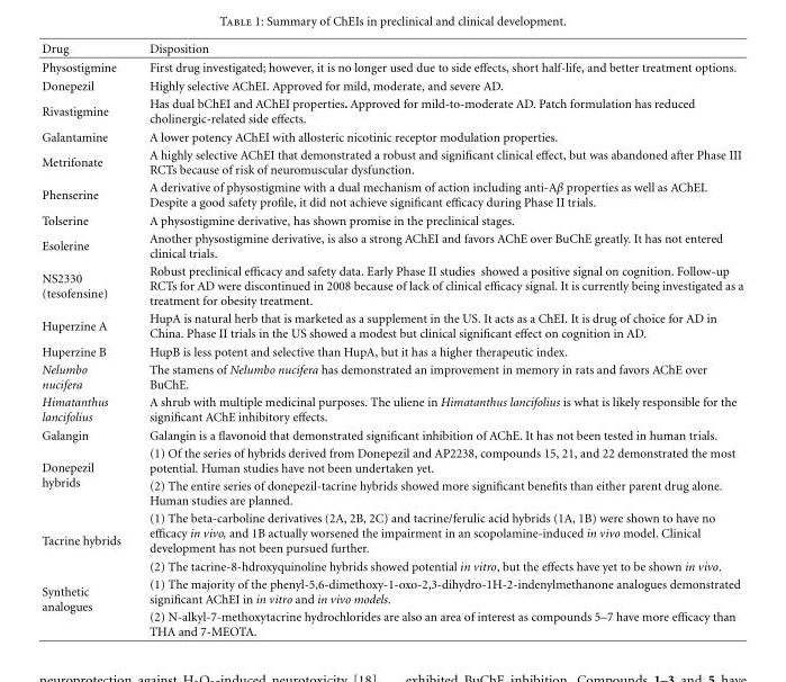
<table><thead><tr><td>Drug</td><td>Disposition</td></tr></thead><tbody><tr><td>Physostigmine</td><td>First drug investigated; however, it is no longer used due to side effects, short half-life, and better treatment options.</td></tr><tr><td>Donepezil</td><td>Highly selective AChEI. Approved for mild, moderate, and severe AD.</td></tr><tr><td>Rivastigmine</td><td>Has dual bChEI and AChEI properties. Approved for mild-to-moderate AD. Patch formulation has reduced cholinergic-related side effects.</td></tr><tr><td>Galantamine</td><td>A lower potency AChEI with allosteric nicotinic receptor modulation properties.</td></tr><tr><td>Metrifonate</td><td>A highly selective AChEI that demonstrated a robust and significant clinical effect, but was abandoned after Phase III RCTs because of risk of neuromuscular dysfunction.</td></tr><tr><td>Phenserine</td><td>A derivative of physostigmine with a dual mechanism of action including anti-Aβ properties as well as AChEI. Despite a good safety profile, it did not achieve significant efficacy during Phase II trials.</td></tr><tr><td>Tolserine</td><td>A physostigmine derivative, has shown promise in the preclinical stages.</td></tr><tr><td>Esolerine</td><td>Another physostigmine derivative, is also a strong AChEI and favors AChE over BuChE greatly. It has not entered clinical trials.</td></tr><tr><td>NS2330 (tesofensine)</td><td>Robust preclinical efficacy and safety data. Early Phase II studies showed a positive signal on cognition. Follow-up RCTs for AD were discontinued in 2008 because of lack of clinical efficacy signal. It is currently being investigated as a treatment for obesity treatment.</td></tr><tr><td>Huperzine A</td><td>HupA is natural herb that is marketed as a supplement in the US. It acts as a ChEI. It is drug of choice for AD in China. Phase II trials in the US showed a modest but clinical significant effect on cognition in AD.</td></tr><tr><td>Huperzine B</td><td>HupB is less potent and selective than HupA, but it has a higher therapeutic index.</td></tr><tr><td>Nelumbo nucifera</td><td>The stamens of Nelumbo nucifera has demonstrated an improvement in memory in rats and favors AChE over BuChE.</td></tr><tr><td>Himatanthus lancifolius</td><td>A shrub with multiple medicinal purposes. The uliene in Himatanthus lancifolius is what is likely responsible for the significant AChE inhibitory effects.</td></tr><tr><td>Galangin</td><td>Galangin is a flavonoid that demonstrated significant inhibition of AChE. It has not been tested in human trials.</td></tr><tr><td rowspan="2">Donepezil hybrids</td><td>(1) Of the series of hybrids derived from Donepezil and AP2238, compounds 15, 21, and 22 demonstrated the most potential. Human studies have not been undertaken yet.</td></tr><tr><td>(2) The entire series of donepezil-tacrine hybrids showed more significant benefits than either parent drug alone. Human studies are planned.</td></tr><tr><td rowspan="2">Tacrine hybrids</td><td>(1) The beta-carboline derivatives (2A, 2B, 2C) and tacrine/ferulic acid hybrids (1A, 1B) were shown to have no efficacy in vivo, and 1B actually worsened the impairment in an scopolamine-induced in vivo model. Clinical development has not been pursued further.</td></tr><tr><td>(2) The tacrine-8-hdroxyquinoline hybrids showed potential in vitro, but the effects have yet to be shown in vivo.</td></tr><tr><td rowspan="2">Synthetic analogues</td><td>(1) The majority of the phenyl-5,6-dimethoxy-1-oxo-2,3-dihydro-1H-2-indenylmethanone analogues demonstrated significant AChEI in in vitro and in vivo models.</td></tr><tr><td>(2) N-alkyl-7-methoxytacrine hydrochlorides are also an area of interest as compounds 5–7 have more efficacy than THA and 7-MEOTA.</td></tr></tbody></table>